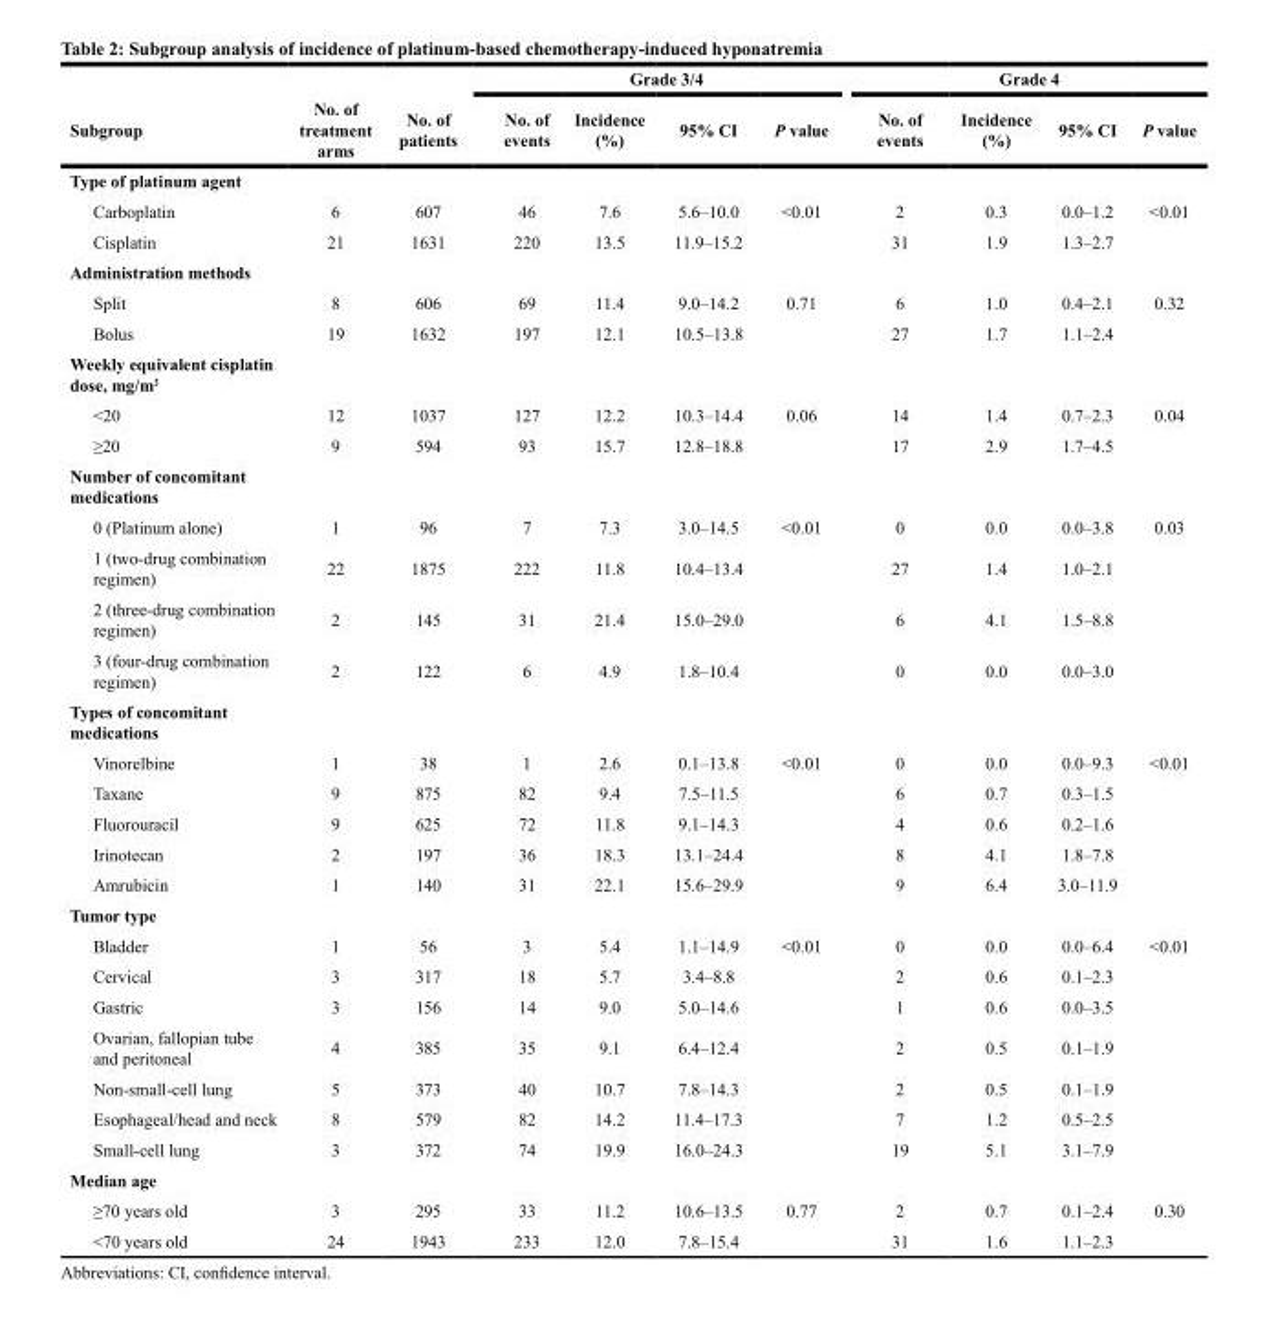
<table><thead><tr><td rowspan="2">Subgroup</td><td rowspan="2">No. of treatment arms</td><td rowspan="2">No. of patients</td><td colspan="4">Grade 3/4</td><td colspan="4">Grade 4</td></tr><tr><td>No. of events</td><td>Incidence (%)</td><td>95% CI</td><td>P value</td><td>No. of events</td><td>Incidence (%)</td><td>95% CI</td><td>P value</td></tr></thead><tbody><tr><td colspan="11">Type of platinum agent</td></tr><tr><td>Carboplatin</td><td>6</td><td>607</td><td>46</td><td>7.6</td><td>5.6–10.0</td><td rowspan="2">&lt;0.01</td><td>2</td><td>0.3</td><td>0.0–1.2</td><td rowspan="2">&lt;0.01</td></tr><tr><td>Cisplatin</td><td>21</td><td>1631</td><td>220</td><td>13.5</td><td>11.9–15.2</td><td>31</td><td>1.9</td><td>1.3–2.7</td></tr><tr><td colspan="11">Administration methods</td></tr><tr><td>Split</td><td>8</td><td>606</td><td>69</td><td>11.4</td><td>9.0–14.2</td><td rowspan="2">0.71</td><td>6</td><td>1.0</td><td>0.4–2.1</td><td rowspan="2">0.32</td></tr><tr><td>Bolus</td><td>19</td><td>1632</td><td>197</td><td>12.1</td><td>10.5–13.8</td><td>27</td><td>1.7</td><td>1.1–2.4</td></tr><tr><td colspan="11">Weekly equivalent cisplatin dose, mg/m<sup>2</sup></td></tr><tr><td>&lt;20</td><td>12</td><td>1037</td><td>127</td><td>12.2</td><td>10.3–14.4</td><td rowspan="2">0.06</td><td>14</td><td>1.4</td><td>0.7–2.3</td><td rowspan="2">0.04</td></tr><tr><td>≥20</td><td>9</td><td>594</td><td>93</td><td>15.7</td><td>12.8–18.8</td><td>17</td><td>2.9</td><td>1.7–4.5</td></tr><tr><td colspan="11">Number of concomitant medications</td></tr><tr><td>0 (Platinum alone)</td><td>1</td><td>96</td><td>7</td><td>7.3</td><td>3.0–14.5</td><td rowspan="4">&lt;0.01</td><td>0</td><td>0.0</td><td>0.0–3.8</td><td rowspan="4">0.03</td></tr><tr><td>1 (two-drug combination regimen)</td><td>22</td><td>1875</td><td>222</td><td>11.8</td><td>10.4–13.4</td><td>27</td><td>1.4</td><td>1.0–2.1</td></tr><tr><td>2 (three-drug combination regimen)</td><td>2</td><td>145</td><td>31</td><td>21.4</td><td>15.0–29.0</td><td>6</td><td>4.1</td><td>1.5–8.8</td></tr><tr><td>3 (four-drug combination regimen)</td><td>2</td><td>122</td><td>6</td><td>4.9</td><td>1.8–10.4</td><td>0</td><td>0.0</td><td>0.0–3.0</td></tr><tr><td colspan="11">Types of concomitant medications</td></tr><tr><td>Vinorelbine</td><td>1</td><td>38</td><td>1</td><td>2.6</td><td>0.1–13.8</td><td rowspan="5">&lt;0.01</td><td>0</td><td>0.0</td><td>0.0–9.3</td><td rowspan="5">&lt;0.01</td></tr><tr><td>Taxane</td><td>9</td><td>875</td><td>82</td><td>9.4</td><td>7.5–11.5</td><td>6</td><td>0.7</td><td>0.3–1.5</td></tr><tr><td>Fluorouracil</td><td>9</td><td>625</td><td>72</td><td>11.8</td><td>9.1–14.3</td><td>4</td><td>0.6</td><td>0.2–1.6</td></tr><tr><td>Irinotecan</td><td>2</td><td>197</td><td>36</td><td>18.3</td><td>13.1–24.4</td><td>8</td><td>4.1</td><td>1.8–7.8</td></tr><tr><td>Amrubicin</td><td>1</td><td>140</td><td>31</td><td>22.1</td><td>15.6–29.9</td><td>9</td><td>6.4</td><td>3.0–11.9</td></tr><tr><td colspan="11">Tumor type</td></tr><tr><td>Bladder</td><td>1</td><td>56</td><td>3</td><td>5.4</td><td>1.1–14.9</td><td rowspan="7">&lt;0.01</td><td>0</td><td>0.0</td><td>0.0–6.4</td><td rowspan="7">&lt;0.01</td></tr><tr><td>Cervical</td><td>3</td><td>317</td><td>18</td><td>5.7</td><td>3.4–8.8</td><td>2</td><td>0.6</td><td>0.1–2.3</td></tr><tr><td>Gastric</td><td>3</td><td>156</td><td>14</td><td>9.0</td><td>5.0–14.6</td><td>1</td><td>0.6</td><td>0.0–3.5</td></tr><tr><td>Ovarian, fallopian tube and peritoneal</td><td>4</td><td>385</td><td>35</td><td>9.1</td><td>6.4–12.4</td><td>2</td><td>0.5</td><td>0.1–1.9</td></tr><tr><td>Non-small-cell lung</td><td>5</td><td>373</td><td>40</td><td>10.7</td><td>7.8–14.3</td><td>2</td><td>0.5</td><td>0.1–1.9</td></tr><tr><td>Esophageal/head and neck</td><td>8</td><td>579</td><td>82</td><td>14.2</td><td>11.4–17.3</td><td>7</td><td>1.2</td><td>0.5–2.5</td></tr><tr><td>Small-cell lung</td><td>3</td><td>372</td><td>74</td><td>19.9</td><td>16.0–24.3</td><td>19</td><td>5.1</td><td>3.1–7.9</td></tr><tr><td colspan="11">Median age</td></tr><tr><td>≥70 years old</td><td>3</td><td>295</td><td>33</td><td>11.2</td><td>10.6–13.5</td><td rowspan="2">0.77</td><td>2</td><td>0.7</td><td>0.1–2.4</td><td rowspan="2">0.30</td></tr><tr><td>&lt;70 years old</td><td>24</td><td>1943</td><td>233</td><td>12.0</td><td>7.8–15.4</td><td>31</td><td>1.6</td><td>1.1–2.3</td></tr></tbody></table>